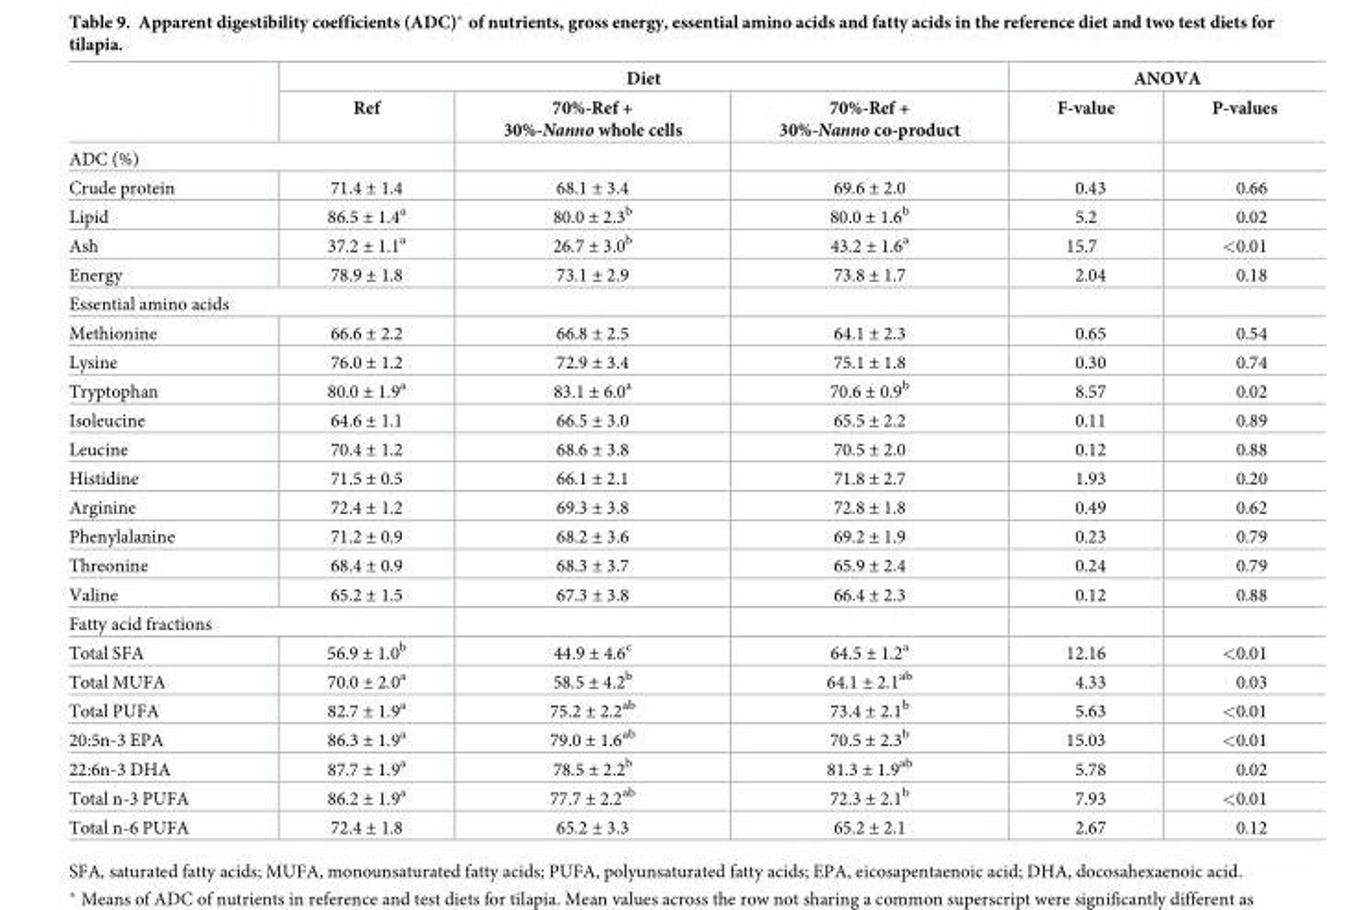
<table><thead><tr><td rowspan="2"></td><td colspan="3">Diet</td><td colspan="2">ANOVA</td></tr><tr><td>Ref</td><td>70%-Ref + 30%-Nanno whole cells</td><td>70%-Ref + 30%-Nanno co-product</td><td>F-value</td><td>P-values</td></tr></thead><tbody><tr><td colspan="6">ADC (%)</td></tr><tr><td>Crude protein</td><td>71.4 ± 1.4</td><td>68.1 ± 3.4</td><td>69.6 ± 2.0</td><td>0.43</td><td>0.66</td></tr><tr><td>Lipid</td><td>86.5 ± 1.4<sup>a</sup></td><td>80.0 ± 2.3<sup>b</sup></td><td>80.0 ± 1.6<sup>b</sup></td><td>5.2</td><td>0.02</td></tr><tr><td>Ash</td><td>37.2 ± 1.1<sup>a</sup></td><td>26.7 ± 3.0<sup>b</sup></td><td>43.2 ± 1.6<sup>a</sup></td><td>15.7</td><td>&lt;0.01</td></tr><tr><td>Energy</td><td>78.9 ± 1.8</td><td>73.1 ± 2.9</td><td>73.8 ± 1.7</td><td>2.04</td><td>0.18</td></tr><tr><td colspan="6">Essential amino acids</td></tr><tr><td>Methionine</td><td>66.6 ± 2.2</td><td>66.8 ± 2.5</td><td>64.1 ± 2.3</td><td>0.65</td><td>0.54</td></tr><tr><td>Lysine</td><td>76.0 ± 1.2</td><td>72.9 ± 3.4</td><td>75.1 ± 1.8</td><td>0.30</td><td>0.74</td></tr><tr><td>Tryptophan</td><td>80.0 ± 1.9<sup>a</sup></td><td>83.1 ± 6.0<sup>a</sup></td><td>70.6 ± 0.9<sup>b</sup></td><td>8.57</td><td>0.02</td></tr><tr><td>Isoleucine</td><td>64.6 ± 1.1</td><td>66.5 ± 3.0</td><td>65.5 ± 2.2</td><td>0.11</td><td>0.89</td></tr><tr><td>Leucine</td><td>70.4 ± 1.2</td><td>68.6 ± 3.8</td><td>70.5 ± 2.0</td><td>0.12</td><td>0.88</td></tr><tr><td>Histidine</td><td>71.5 ± 0.5</td><td>66.1 ± 2.1</td><td>71.8 ± 2.7</td><td>1.93</td><td>0.20</td></tr><tr><td>Arginine</td><td>72.4 ± 1.2</td><td>69.3 ± 3.8</td><td>72.8 ± 1.8</td><td>0.49</td><td>0.62</td></tr><tr><td>Phenylalanine</td><td>71.2 ± 0.9</td><td>68.2 ± 3.6</td><td>69.2 ± 1.9</td><td>0.23</td><td>0.79</td></tr><tr><td>Threonine</td><td>68.4 ± 0.9</td><td>68.3 ± 3.7</td><td>65.9 ± 2.4</td><td>0.24</td><td>0.79</td></tr><tr><td>Valine</td><td>65.2 ± 1.5</td><td>67.3 ± 3.8</td><td>66.4 ± 2.3</td><td>0.12</td><td>0.88</td></tr><tr><td colspan="6">Fatty acid fractions</td></tr><tr><td>Total SFA</td><td>56.9 ± 1.0<sup>b</sup></td><td>44.9 ± 4.6<sup>c</sup></td><td>64.5 ± 1.2<sup>a</sup></td><td>12.16</td><td>&lt;0.01</td></tr><tr><td>Total MUFA</td><td>70.0 ± 2.0<sup>a</sup></td><td>58.5 ± 4.2<sup>b</sup></td><td>64.1 ± 2.1<sup>ab</sup></td><td>4.33</td><td>0.03</td></tr><tr><td>Total PUFA</td><td>82.7 ± 1.9<sup>a</sup></td><td>75.2 ± 2.2<sup>ab</sup></td><td>73.4 ± 2.1<sup>b</sup></td><td>5.63</td><td>&lt;0.01</td></tr><tr><td>20:5n-3 EPA</td><td>86.3 ± 1.9<sup>a</sup></td><td>79.0 ± 1.6<sup>ab</sup></td><td>70.5 ± 2.3<sup>b</sup></td><td>15.03</td><td>&lt;0.01</td></tr><tr><td>22:6n-3 DHA</td><td>87.7 ± 1.9<sup>a</sup></td><td>78.5 ± 2.2<sup>b</sup></td><td>81.3 ± 1.9<sup>ab</sup></td><td>5.78</td><td>0.02</td></tr><tr><td>Total n-3 PUFA</td><td>86.2 ± 1.9<sup>a</sup></td><td>77.7 ± 2.2<sup>ab</sup></td><td>72.3 ± 2.1<sup>b</sup></td><td>7.93</td><td>&lt;0.01</td></tr><tr><td>Total n-6 PUFA</td><td>72.4 ± 1.8</td><td>65.2 ± 3.3</td><td>65.2 ± 2.1</td><td>2.67</td><td>0.12</td></tr></tbody></table>